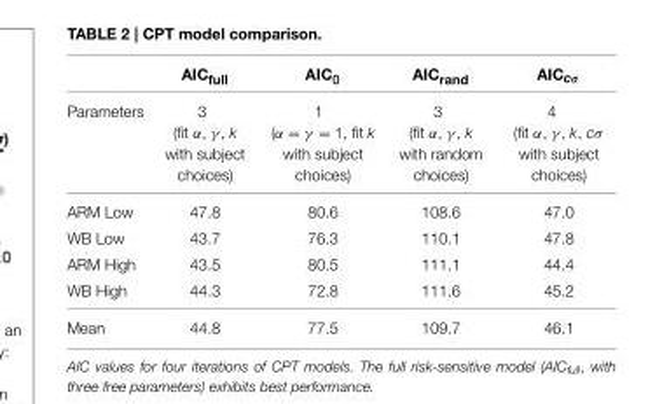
<table><thead><tr><td></td><td>AIC<sub>full</sub></td><td>AIC<sub>0</sub></td><td>AIC<sub>rand</sub></td><td>AIC<sub>cσ</sub></td></tr></thead><tbody><tr><td>Parameters</td><td>3 (fit α, γ , k with subject choices)</td><td>1 (α = γ = 1, fit k with subject choices)</td><td>3 (fit α, γ , k with random choices)</td><td>4 (fit α, γ , k, cσ with subject choices)</td></tr><tr><td>ARM Low</td><td>47.8</td><td>80.6</td><td>108.6</td><td>47.0</td></tr><tr><td>WB Low</td><td>43.7</td><td>76.3</td><td>110.1</td><td>47.8</td></tr><tr><td>ARM High</td><td>43.5</td><td>80.5</td><td>111.1</td><td>44.4</td></tr><tr><td>WB High</td><td>44.3</td><td>72.8</td><td>111.6</td><td>45.2</td></tr><tr><td>Mean</td><td>44.8</td><td>77.5</td><td>109.7</td><td>46.1</td></tr></tbody></table>